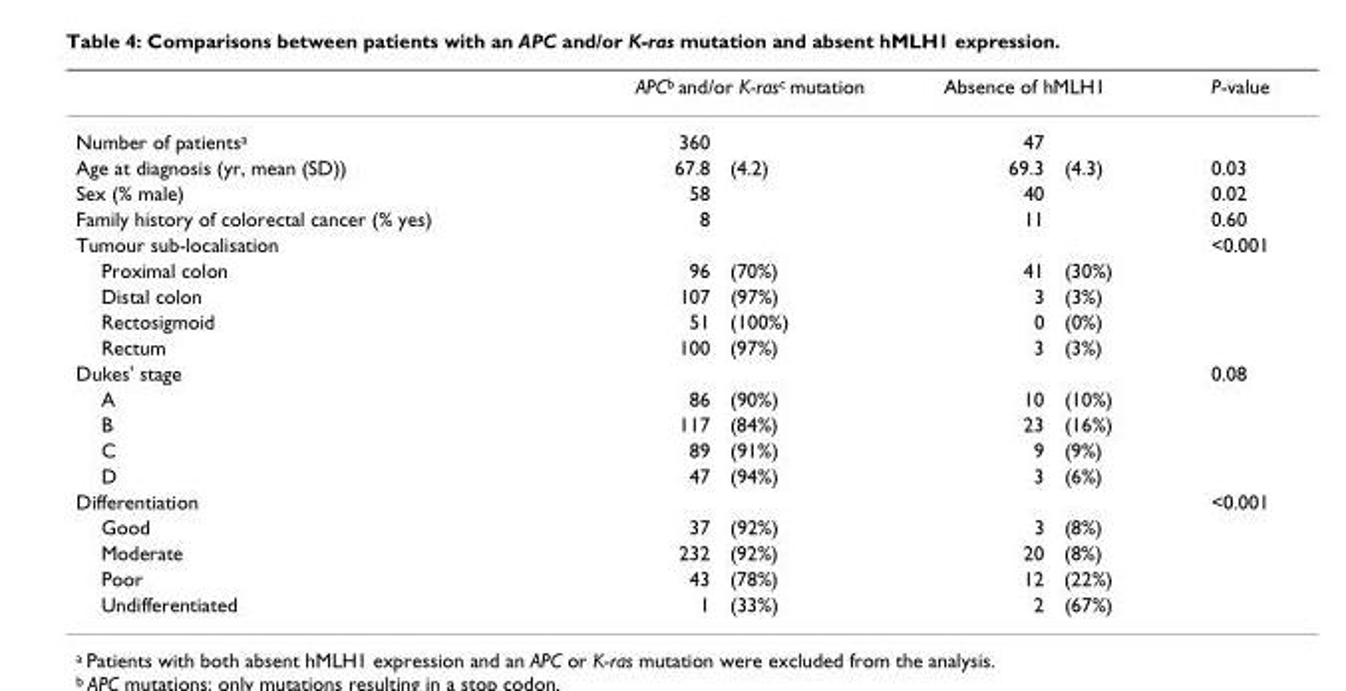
<table><thead><tr><td rowspan="2">Number of patientsa</td><td colspan="2">APCb and/or K-rasc mutation</td><td colspan="2">Absence of hMLH1</td><td rowspan="2">P-value</td></tr><tr><td>360</td><td></td><td>47</td><td></td></tr></thead><tbody><tr><td>Age at diagnosis (yr, mean (SD))</td><td>67.8</td><td>(4.2)</td><td>69.3</td><td>(4.3)</td><td>0.03</td></tr><tr><td>Sex (% male)</td><td>58</td><td></td><td>40</td><td></td><td>0.02</td></tr><tr><td>Family history of colorectal cancer (% yes)</td><td>8</td><td></td><td>11</td><td></td><td>0.60</td></tr><tr><td>Tumour sub-localisation</td><td></td><td></td><td></td><td></td><td>&lt;0.001</td></tr><tr><td>Proximal colon</td><td>96</td><td>(70%)</td><td>41</td><td>(30%)</td><td></td></tr><tr><td>Distal colon</td><td>107</td><td>(97%)</td><td>3</td><td>(3%)</td><td></td></tr><tr><td>Rectosigmoid</td><td>51</td><td>(100%)</td><td>0</td><td>(0%)</td><td></td></tr><tr><td>Rectum</td><td>100</td><td>(97%)</td><td>3</td><td>(3%)</td><td></td></tr><tr><td>Dukes&#x27; stage</td><td></td><td></td><td></td><td></td><td>0.08</td></tr><tr><td>A</td><td>86</td><td>(90%)</td><td>10</td><td>(10%)</td><td></td></tr><tr><td>B</td><td>117</td><td>(84%)</td><td>23</td><td>(16%)</td><td></td></tr><tr><td>C</td><td>89</td><td>(91%)</td><td>9</td><td>(9%)</td><td></td></tr><tr><td>D</td><td>47</td><td>(94%)</td><td>3</td><td>(6%)</td><td></td></tr><tr><td>Differentiation</td><td></td><td></td><td></td><td></td><td>&lt;0.001</td></tr><tr><td>Good</td><td>37</td><td>(92%)</td><td>3</td><td>(8%)</td><td></td></tr><tr><td>Moderate</td><td>232</td><td>(92%)</td><td>20</td><td>(8%)</td><td></td></tr><tr><td>Poor</td><td>43</td><td>(78%)</td><td>12</td><td>(22%)</td><td></td></tr><tr><td>Undifferentiated</td><td>1</td><td>(33%)</td><td>2</td><td>(67%)</td><td></td></tr></tbody></table>